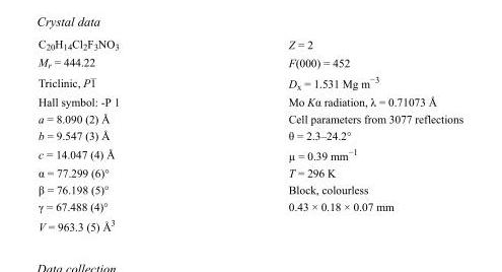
<table><tbody><tr><td>C<sub>20</sub>H<sub>14</sub>Cl<sub>2</sub>F<sub>3</sub>NO<sub>3</sub></td><td>Z = 2</td></tr><tr><td>M<sub>r</sub> = 444.22</td><td>F(000) = 452</td></tr><tr><td>Triclinic, P1</td><td>D<sub>x</sub> = 1.531 Mg m<sup>−3</sup></td></tr><tr><td>Hall symbol: -P 1</td><td>Mo Kα radiation, λ = 0.71073 Å</td></tr><tr><td>a = 8.090 (2) Å</td><td>Cell parameters from 3077 reflections</td></tr><tr><td>b = 9.547 (3) Å</td><td>θ = 2.3–24.2°</td></tr><tr><td>c = 14.047 (4) Å</td><td>µ = 0.39 mm<sup>−1</sup></td></tr><tr><td>α = 77.299 (6)°</td><td>T = 296 K</td></tr><tr><td>β = 76.198 (5)°</td><td>Block, colourless</td></tr><tr><td>γ = 67.488 (4)°</td><td>0.43 × 0.18 × 0.07 mm</td></tr><tr><td>V = 963.3 (5) Å<sup>3</sup></td><td></td></tr></tbody></table>